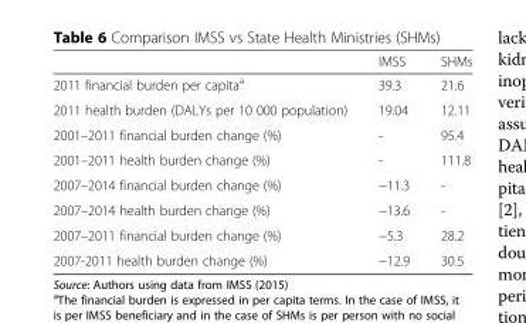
<table><thead><tr><td></td><td>IMSS</td><td>SHMs</td></tr></thead><tbody><tr><td>2011 financial burden per capita<sup>a</sup></td><td>39.3</td><td>21.6</td></tr><tr><td>2011 health burden (DALYs per 10 000 population)</td><td>19.04</td><td>12.11</td></tr><tr><td>2001–2011 financial burden change (%)</td><td>-</td><td>95.4</td></tr><tr><td>2001–2011 health burden change (%)</td><td>-</td><td>111.8</td></tr><tr><td>2007–2014 financial burden change (%)</td><td>−11.3</td><td>-</td></tr><tr><td>2007–2014 health burden change (%)</td><td>−13.6</td><td>-</td></tr><tr><td>2007–2011 financial burden change (%)</td><td>−5.3</td><td>28.2</td></tr><tr><td>2007-2011 health burden change (%)</td><td>−12.9</td><td>30.5</td></tr></tbody></table>